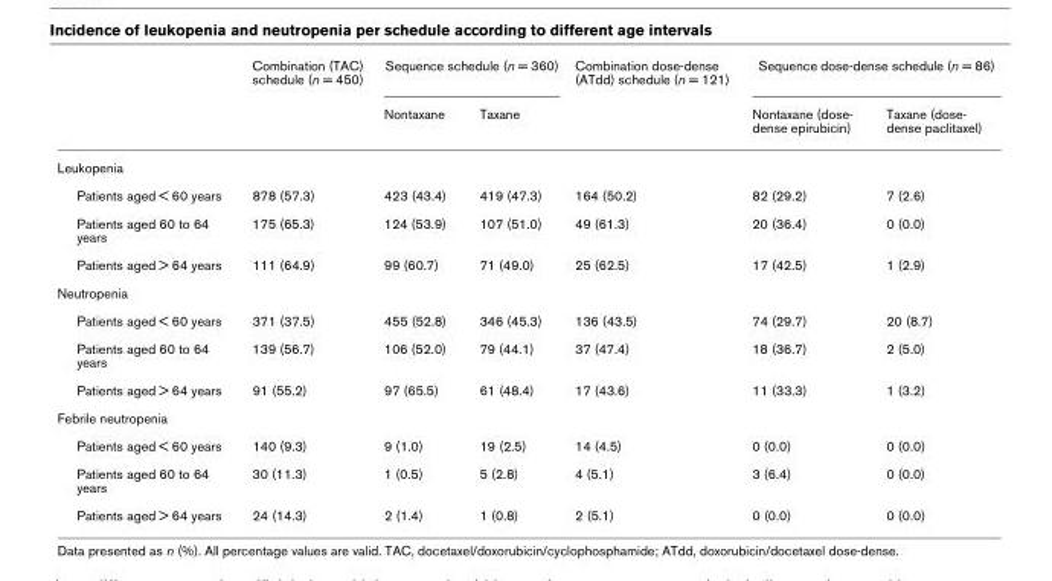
<table><thead><tr><td rowspan="2"></td><td rowspan="2">Combination (TAC) schedule (n = 450)</td><td colspan="2">Sequence schedule (n = 360)</td><td rowspan="2">Combination dose-dense (ATdd) schedule (n = 121)</td><td colspan="2">Sequence dose-dense schedule (n = 86)</td></tr><tr><td>Nontaxane</td><td>Taxane</td><td>Nontaxane (dose- dense epirubicin)</td><td>Taxane (dose- dense paclitaxel)</td></tr></thead><tbody><tr><td colspan="7">Leukopenia</td></tr><tr><td>Patients aged &lt; 60 years</td><td>878 (57.3)</td><td>423 (43.4)</td><td>419 (47.3)</td><td>164 (50.2)</td><td>82 (29.2)</td><td>7 (2.6)</td></tr><tr><td>Patients aged 60 to 64 years</td><td>175 (65.3)</td><td>124 (53.9)</td><td>107 (51.0)</td><td>49 (61.3)</td><td>20 (36.4)</td><td>0 (0.0)</td></tr><tr><td>Patients aged &gt; 64 years</td><td>111 (64.9)</td><td>99 (60.7)</td><td>71 (49.0)</td><td>25 (62.5)</td><td>17 (42.5)</td><td>1 (2.9)</td></tr><tr><td colspan="7">Neutropenia</td></tr><tr><td>Patients aged &lt; 60 years</td><td>371 (37.5)</td><td>455 (52.8)</td><td>346 (45.3)</td><td>136 (43.5)</td><td>74 (29.7)</td><td>20 (8.7)</td></tr><tr><td>Patients aged 60 to 64 years</td><td>139 (56.7)</td><td>106 (52.0)</td><td>79 (44.1)</td><td>37 (47.4)</td><td>18 (36.7)</td><td>2 (5.0)</td></tr><tr><td>Patients aged &gt; 64 years</td><td>91 (55.2)</td><td>97 (65.5)</td><td>61 (48.4)</td><td>17 (43.6)</td><td>11 (33.3)</td><td>1 (3.2)</td></tr><tr><td colspan="7">Febrile neutropenia</td></tr><tr><td>Patients aged &lt; 60 years</td><td>140 (9.3)</td><td>9 (1.0)</td><td>19 (2.5)</td><td>14 (4.5)</td><td>0 (0.0)</td><td>0 (0.0)</td></tr><tr><td>Patients aged 60 to 64 years</td><td>30 (11.3)</td><td>1 (0.5)</td><td>5 (2.8)</td><td>4 (5.1)</td><td>3 (6.4)</td><td>0 (0.0)</td></tr><tr><td>Patients aged &gt; 64 years</td><td>24 (14.3)</td><td>2 (1.4)</td><td>1 (0.8)</td><td>2 (5.1)</td><td>0 (0.0)</td><td>0 (0.0)</td></tr></tbody></table>